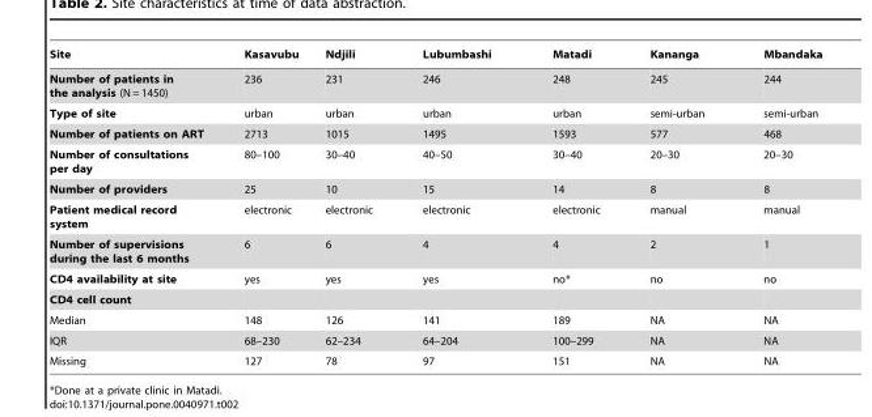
<table><thead><tr><td>Site</td><td>Kasavubu</td><td>Ndjili</td><td>Lubumbashi</td><td>Matadi</td><td>Kananga</td><td>Mbandaka</td></tr></thead><tbody><tr><td>Number of patients in the analysis (N = 1450)</td><td>236</td><td>231</td><td>246</td><td>248</td><td>245</td><td>244</td></tr><tr><td>Type of site</td><td>urban</td><td>urban</td><td>urban</td><td>urban</td><td>semi-urban</td><td>semi-urban</td></tr><tr><td>Number of patients on ART</td><td>2713</td><td>1015</td><td>1495</td><td>1593</td><td>577</td><td>468</td></tr><tr><td>Number of consultations per day</td><td>80–100</td><td>30–40</td><td>40–50</td><td>30–40</td><td>20–30</td><td>20–30</td></tr><tr><td>Number of providers</td><td>25</td><td>10</td><td>15</td><td>14</td><td>8</td><td>8</td></tr><tr><td>Patient medical record system</td><td>electronic</td><td>electronic</td><td>electronic</td><td>electronic</td><td>manual</td><td>manual</td></tr><tr><td>Number of supervisions during the last 6 months</td><td>6</td><td>6</td><td>4</td><td>4</td><td>2</td><td>1</td></tr><tr><td>CD4 availability at site</td><td>yes</td><td>yes</td><td>yes</td><td>no*</td><td>no</td><td>no</td></tr><tr><td colspan="7">CD4 cell count</td></tr><tr><td>Median</td><td>148</td><td>126</td><td>141</td><td>189</td><td>NA</td><td>NA</td></tr><tr><td>IQR</td><td>68–230</td><td>62–234</td><td>64–204</td><td>100–299</td><td>NA</td><td>NA</td></tr><tr><td>Missing</td><td>127</td><td>78</td><td>97</td><td>151</td><td>NA</td><td>NA</td></tr></tbody></table>